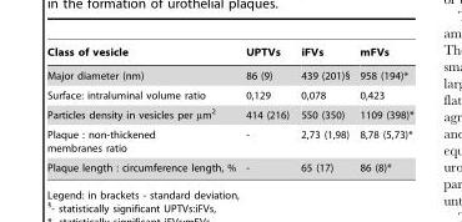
<table><thead><tr><td>Class of vesicle</td><td>UPTVs</td><td>iFVs</td><td>mFVs</td></tr></thead><tbody><tr><td>Major diameter (nm)</td><td>86 (9)</td><td>439 (201)§</td><td>958 (194)*</td></tr><tr><td>Surface: intraluminal volume ratio</td><td>0,129</td><td>0,078</td><td>0,423</td></tr><tr><td>Particles density in vesicles per µm<sup>2</sup></td><td>414 (216)</td><td>550 (350)</td><td>1109 (398)*</td></tr><tr><td>Plaque : non-thickened membranes ratio</td><td>-</td><td>2,73 (1,98)</td><td>8,78 (5,73)*</td></tr><tr><td>Plaque length : circumference length, %</td><td>-</td><td>65 (17)</td><td>86 (8)*</td></tr></tbody></table>